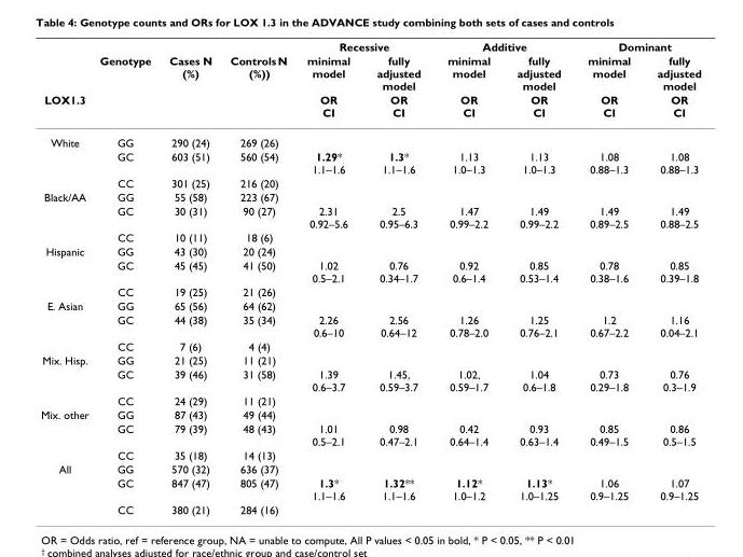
<table><thead><tr><td rowspan="3">LOX1.3</td><td rowspan="3">Genotype</td><td rowspan="3">Cases N (%)</td><td rowspan="3">Controls N (%))</td><td colspan="2">Recessive</td><td colspan="2">Additive</td><td colspan="2">Dominant</td></tr><tr><td rowspan="2">minimal model OR CI</td><td rowspan="2">fully adjusted model OR CI</td><td rowspan="2">minimal model OR CI</td><td rowspan="2">fully adjusted model OR CI</td><td rowspan="2">minimal model OR CI</td><td rowspan="2">fully adjusted model OR CI</td></tr><tr></tr></thead><tbody><tr><td rowspan="3">White</td><td>GG</td><td>290 (24)</td><td>269 (26)</td><td></td><td></td><td></td><td></td><td></td><td></td></tr><tr><td>GC</td><td>603 (51)</td><td>560 (54)</td><td>1.29* 1.1–1.6</td><td>1.3* 1.1–1.6</td><td>1.13 1.0–1.3</td><td>1.13 1.0–1.3</td><td>1.08 0.88–1.3</td><td>1.08 0.88–1.3</td></tr><tr><td>CC</td><td>301 (25)</td><td>216 (20)</td><td></td><td></td><td></td><td></td><td></td><td></td></tr><tr><td rowspan="3">Black/AA</td><td>GG</td><td>55 (58)</td><td>223 (67)</td><td></td><td></td><td></td><td></td><td></td><td></td></tr><tr><td>GC</td><td>30 (31)</td><td>90 (27)</td><td>2.31 0.92–5.6</td><td>2.5 0.95–6.3</td><td>1.47 0.99–2.2</td><td>1.49 0.99–2.2</td><td>1.49 0.89–2.5</td><td>1.49 0.88–2.5</td></tr><tr><td>CC</td><td>10 (11)</td><td>18 (6)</td><td></td><td></td><td></td><td></td><td></td><td></td></tr><tr><td rowspan="3">Hispanic</td><td>GG</td><td>43 (30)</td><td>20 (24)</td><td></td><td></td><td></td><td></td><td></td><td></td></tr><tr><td>GC</td><td>45 (45)</td><td>41 (50)</td><td>1.02 0.5–2.1</td><td>0.76 0.34–1.7</td><td>0.92 0.6–1.4</td><td>0.85 0.53–1.4</td><td>0.78 0.38–1.6</td><td>0.85 0.39–1.8</td></tr><tr><td>CC</td><td>19 (25)</td><td>21 (26)</td><td></td><td></td><td></td><td></td><td></td><td></td></tr><tr><td rowspan="3">E. Asian</td><td>GG</td><td>65 (56)</td><td>64 (62)</td><td></td><td></td><td></td><td></td><td></td><td></td></tr><tr><td>GC</td><td>44 (38)</td><td>35 (34)</td><td>2.26 0.6–10</td><td>2.56 0.64–12</td><td>1.26 0.78–2.0</td><td>1.25 0.76–2.1</td><td>1.2 0.67–2.2</td><td>1.16 0.04–2.1</td></tr><tr><td>CC</td><td>7 (6)</td><td>4 (4)</td><td></td><td></td><td></td><td></td><td></td><td></td></tr><tr><td rowspan="3">Mix. Hisp.</td><td>GG</td><td>21 (25)</td><td>11 (21)</td><td></td><td></td><td></td><td></td><td></td><td></td></tr><tr><td>GC</td><td>39 (46)</td><td>31 (58)</td><td>1.39 0.6–3.7</td><td>1.45, 0.59–3.7</td><td>1.02, 0.59–1.7</td><td>1.04 0.6–1.8</td><td>0.73 0.29–1.8</td><td>0.76 0.3–1.9</td></tr><tr><td>CC</td><td>24 (29)</td><td>11 (21)</td><td></td><td></td><td></td><td></td><td></td><td></td></tr><tr><td rowspan="3">Mix. other</td><td>GG</td><td>87 (43)</td><td>49 (44)</td><td></td><td></td><td></td><td></td><td></td><td></td></tr><tr><td>GC</td><td>79 (39)</td><td>48 (43)</td><td>1.01 0.5–2.1</td><td>0.98 0.47–2.1</td><td>0.42 0.64–1.4</td><td>0.93 0.63–1.4</td><td>0.85 0.49–1.5</td><td>0.86 0.5–1.5</td></tr><tr><td>CC</td><td>35 (18)</td><td>14 (13)</td><td></td><td></td><td></td><td></td><td></td><td></td></tr><tr><td rowspan="3">All</td><td>GG</td><td>570 (32)</td><td>636 (37)</td><td></td><td></td><td></td><td></td><td></td><td></td></tr><tr><td>GC</td><td>847 (47)</td><td>805 (47)</td><td>1.3* 1.1–1.6</td><td>1.32** 1.1–1.6</td><td>1.12* 1.0–1.2</td><td>1.13* 1.0–1.25</td><td>1.06 0.9–1.25</td><td>1.07 0.9–1.25</td></tr><tr><td>CC</td><td>380 (21)</td><td>284 (16)</td><td></td><td></td><td></td><td></td><td></td><td></td></tr></tbody></table>